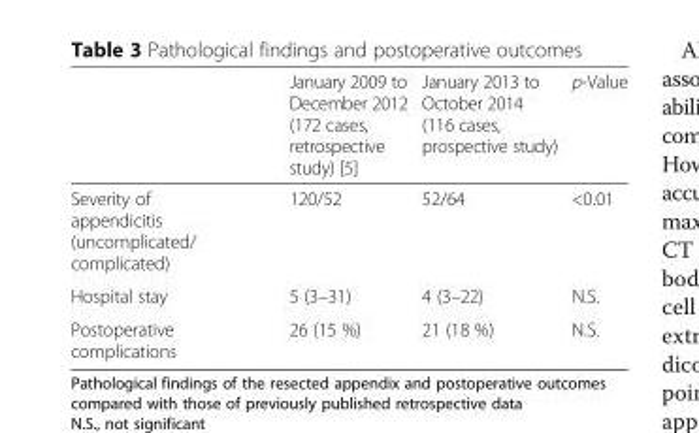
<table><thead><tr><td></td><td>January 2009 to December 2012 (172 cases, retrospective study) [5]</td><td>January 2013 to October 2014 (116 cases, prospective study)</td><td>p-Value</td></tr></thead><tbody><tr><td>Severity of appendicitis (uncomplicated/ complicated)</td><td>120/52</td><td>52/64</td><td>&lt;0.01</td></tr><tr><td>Hospital stay</td><td>5 (3–31)</td><td>4 (3–22)</td><td>N.S.</td></tr><tr><td>Postoperative complications</td><td>26 (15 %)</td><td>21 (18 %)</td><td>N.S.</td></tr></tbody></table>